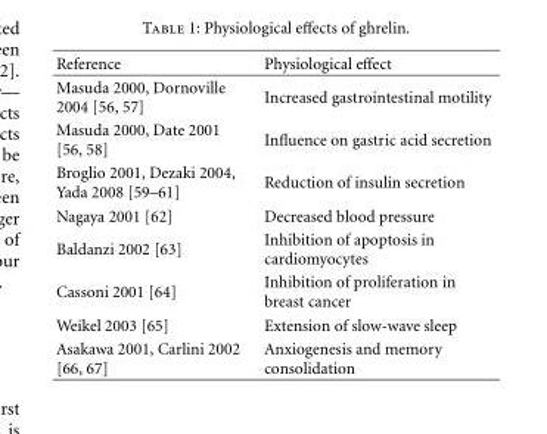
<table><thead><tr><td>Reference</td><td>Physiological effect</td></tr></thead><tbody><tr><td>Masuda 2000, Dornoville 2004 [56, 57]</td><td>Increased gastrointestinal motility</td></tr><tr><td>Masuda 2000, Date 2001 [56, 58]</td><td>Influence on gastric acid secretion</td></tr><tr><td>Broglio 2001, Dezaki 2004, Yada 2008 [59–61]</td><td>Reduction of insulin secretion</td></tr><tr><td>Nagaya 2001 [62]</td><td>Decreased blood pressure</td></tr><tr><td>Baldanzi 2002 [63]</td><td>Inhibition of apoptosis in cardiomyocytes</td></tr><tr><td>Cassoni 2001 [64]</td><td>Inhibition of proliferation in breast cancer</td></tr><tr><td>Weikel 2003 [65]</td><td>Extension of slow-wave sleep</td></tr><tr><td>Asakawa 2001, Carlini 2002 [66, 67]</td><td>Anxiogenesis and memory consolidation</td></tr></tbody></table>